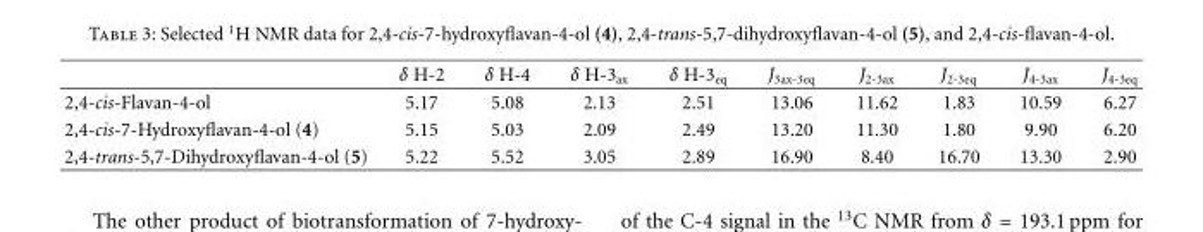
<table><thead><tr><td></td><td>δ H-2</td><td>δ H-4</td><td>δ H-3<sub>ax</sub></td><td>δ H-3<sub>eq</sub></td><td>J<sub>3ax-3eq</sub></td><td>J<sub>2-3ax</sub></td><td>J<sub>2-3eq</sub></td><td>J<sub>4-3ax</sub></td><td>J<sub>4-3eq</sub></td></tr></thead><tbody><tr><td>2,4-cis-Flavan-4-ol</td><td>5.17</td><td>5.08</td><td>2.13</td><td>2.51</td><td>13.06</td><td>11.62</td><td>1.83</td><td>10.59</td><td>6.27</td></tr><tr><td>2,4-cis-7-Hydroxyflavan-4-ol (4)</td><td>5.15</td><td>5.03</td><td>2.09</td><td>2.49</td><td>13.20</td><td>11.30</td><td>1.80</td><td>9.90</td><td>6.20</td></tr><tr><td>2,4-trans-5,7-Dihydroxyflavan-4-ol (5)</td><td>5.22</td><td>5.52</td><td>3.05</td><td>2.89</td><td>16.90</td><td>8.40</td><td>16.70</td><td>13.30</td><td>2.90</td></tr></tbody></table>